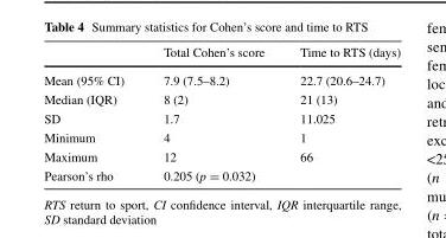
<table><thead><tr><td></td><td>Total Cohen’s score</td><td>Time to RTS (days)</td></tr></thead><tbody><tr><td>Mean (95% CI)</td><td>7.9 (7.5–8.2)</td><td>22.7 (20.6–24.7)</td></tr><tr><td>Median (IQR)</td><td>8 (2)</td><td>21 (13)</td></tr><tr><td>SD</td><td>1.7</td><td>11.025</td></tr><tr><td>Minimum</td><td>4</td><td>1</td></tr><tr><td>Maximum</td><td>12</td><td>66</td></tr><tr><td>Pearson’s rho</td><td colspan="2">0.205 (p = 0.032)</td></tr></tbody></table>